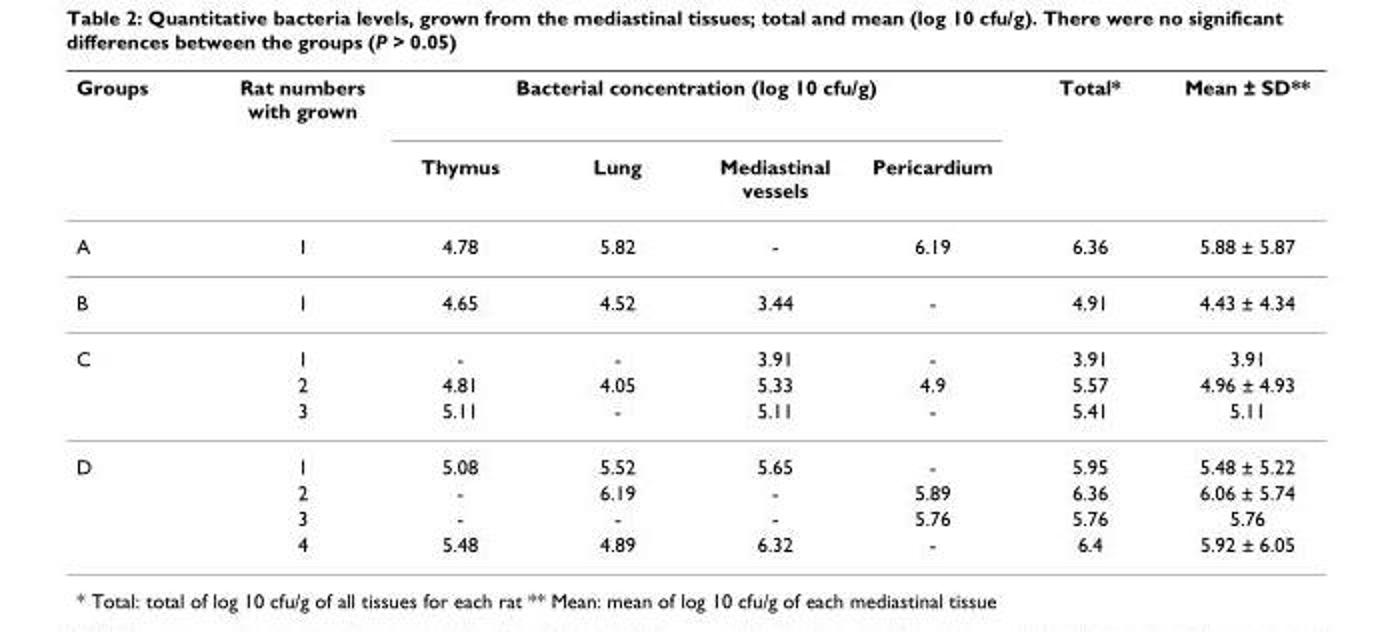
<table><thead><tr><td rowspan="2">Groups</td><td rowspan="2">Rat numbers with grown</td><td colspan="4">Bacterial concentration (log 10 cfu/g)</td><td rowspan="2">Total*</td><td rowspan="2">Mean ± SD**</td></tr><tr><td>Thymus</td><td>Lung</td><td>Mediastinal vessels</td><td>Pericardium</td></tr></thead><tbody><tr><td>A</td><td>1</td><td>4.78</td><td>5.82</td><td>-</td><td>6.19</td><td>6.36</td><td>5.88 ± 5.87</td></tr><tr><td>B</td><td>1</td><td>4.65</td><td>4.52</td><td>3.44</td><td>-</td><td>4.91</td><td>4.43 ± 4.34</td></tr><tr><td rowspan="3">C</td><td>1</td><td>-</td><td>-</td><td>3.91</td><td>-</td><td>3.91</td><td>3.91</td></tr><tr><td>2</td><td>4.81</td><td>4.05</td><td>5.33</td><td>4.9</td><td>5.57</td><td>4.96 ± 4.93</td></tr><tr><td>3</td><td>5.11</td><td>-</td><td>5.11</td><td>-</td><td>5.41</td><td>5.11</td></tr><tr><td rowspan="4">D</td><td>1</td><td>5.08</td><td>5.52</td><td>5.65</td><td>-</td><td>5.95</td><td>5.48 ± 5.22</td></tr><tr><td>2</td><td>-</td><td>6.19</td><td>-</td><td>5.89</td><td>6.36</td><td>6.06 ± 5.74</td></tr><tr><td>3</td><td>-</td><td>-</td><td>-</td><td>5.76</td><td>5.76</td><td>5.76</td></tr><tr><td>4</td><td>5.48</td><td>4.89</td><td>6.32</td><td>-</td><td>6.4</td><td>5.92 ± 6.05</td></tr></tbody></table>